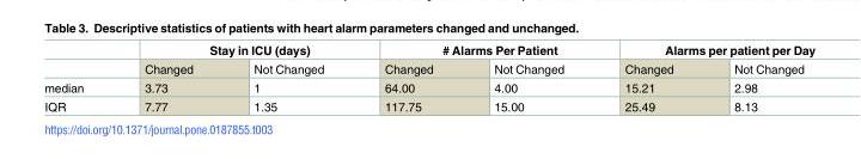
<table><thead><tr><td rowspan="2"></td><td colspan="2">Stay in ICU (days)</td><td colspan="2"># Alarms Per Patient</td><td colspan="2">Alarms per patient per Day</td></tr><tr><td>Changed</td><td>Not Changed</td><td>Changed</td><td>Not Changed</td><td>Changed</td><td>Not Changed</td></tr></thead><tbody><tr><td>median</td><td>3.73</td><td>1</td><td>64.00</td><td>4.00</td><td>15.21</td><td>2.98</td></tr><tr><td>IQR</td><td>7.77</td><td>1.35</td><td>117.75</td><td>15.00</td><td>25.49</td><td>8.13</td></tr></tbody></table>